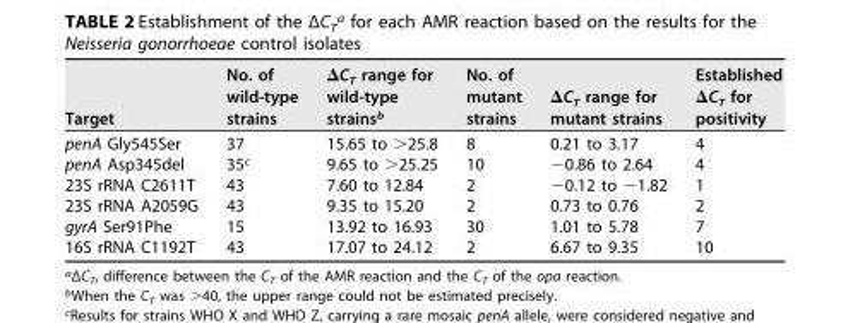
<table><thead><tr><td>Target</td><td>No. of wild-type strains</td><td>ΔC<sub>T</sub> range for wild-type strains<sup>b</sup></td><td>No. of mutant strains</td><td>ΔC<sub>T</sub> range for mutant strains</td><td>Established ΔC<sub>T</sub> for positivity</td></tr></thead><tbody><tr><td>penA Gly545Ser</td><td>37</td><td>15.65 to &gt;25.8</td><td>8</td><td>0.21 to 3.17</td><td>4</td></tr><tr><td>penA Asp345del</td><td>35<sup>c</sup></td><td>9.65 to &gt;25.25</td><td>10</td><td>−0.86 to 2.64</td><td>4</td></tr><tr><td>23S rRNA C2611T</td><td>43</td><td>7.60 to 12.84</td><td>2</td><td>−0.12 to −1.82</td><td>1</td></tr><tr><td>23S rRNA A2059G</td><td>43</td><td>9.35 to 15.20</td><td>2</td><td>0.73 to 0.76</td><td>2</td></tr><tr><td>gyrA Ser91Phe</td><td>15</td><td>13.92 to 16.93</td><td>30</td><td>1.01 to 5.78</td><td>7</td></tr><tr><td>16S rRNA C1192T</td><td>43</td><td>17.07 to 24.12</td><td>2</td><td>6.67 to 9.35</td><td>10</td></tr></tbody></table>